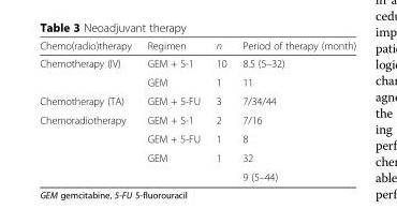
<table><thead><tr><td>Chemo(radio)therapy</td><td>Regimen</td><td>n</td><td>Period of therapy (month)</td></tr></thead><tbody><tr><td rowspan="2">Chemotherapy (IV)</td><td>GEM + S-1</td><td>10</td><td>8.5 (5–32)</td></tr><tr><td>GEM</td><td>1</td><td>11</td></tr><tr><td>Chemotherapy (TA)</td><td>GEM + 5-FU</td><td>3</td><td>7/34/44</td></tr><tr><td rowspan="4">Chemoradiotherapy</td><td>GEM + S-1</td><td>2</td><td>7/16</td></tr><tr><td>GEM + 5-FU</td><td>1</td><td>8</td></tr><tr><td>GEM</td><td>1</td><td>32</td></tr><tr><td></td><td></td><td>9 (5–44)</td></tr></tbody></table>